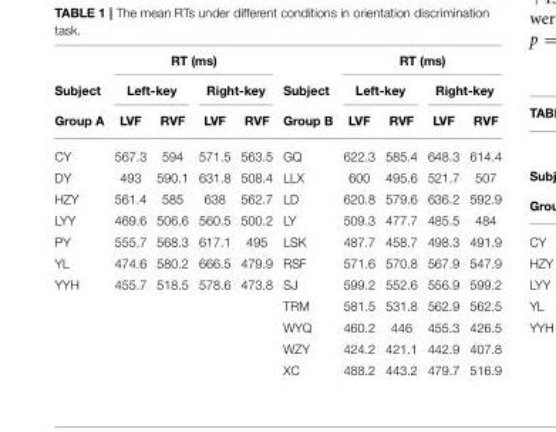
<table><thead><tr><td rowspan="3">Subject Group A</td><td colspan="4">RT (ms)</td><td rowspan="3">Subject Group B</td><td colspan="4">RT (ms)</td></tr><tr><td colspan="2">Left-key</td><td colspan="2">Right-key</td><td colspan="2">Left-key</td><td colspan="2">Right-key</td></tr><tr><td>LVF</td><td>RVF</td><td>LVF</td><td>RVF</td><td>LVF</td><td>RVF</td><td>LVF</td><td>RVF</td></tr></thead><tbody><tr><td>CY</td><td>567.3</td><td>594</td><td>571.5</td><td>563.5</td><td>GQ</td><td>622.3</td><td>585.4</td><td>648.3</td><td>614.4</td></tr><tr><td>DY</td><td>493</td><td>590.1</td><td>631.8</td><td>508.4</td><td>LLX</td><td>600</td><td>495.6</td><td>521.7</td><td>507</td></tr><tr><td>HZY</td><td>561.4</td><td>585</td><td>638</td><td>562.7</td><td>LD</td><td>620.8</td><td>579.6</td><td>636.2</td><td>592.9</td></tr><tr><td>LYY</td><td>469.6</td><td>506.6</td><td>560.5</td><td>500.2</td><td>LY</td><td>509.3</td><td>477.7</td><td>485.5</td><td>484</td></tr><tr><td>PY</td><td>555.7</td><td>568.3</td><td>617.1</td><td>495</td><td>LSK</td><td>487.7</td><td>458.7</td><td>498.3</td><td>491.9</td></tr><tr><td>YL</td><td>474.6</td><td>580.2</td><td>666.5</td><td>479.9</td><td>RSF</td><td>571.6</td><td>570.8</td><td>567.9</td><td>547.9</td></tr><tr><td rowspan="5">YYH</td><td>455.7</td><td>518.5</td><td>578.6</td><td>473.8</td><td>SJ</td><td>599.2</td><td>552.6</td><td>556.9</td><td>599.2</td></tr><tr><td></td><td></td><td></td><td></td><td>TRM</td><td>581.5</td><td>531.8</td><td>562.9</td><td>562.5</td></tr><tr><td></td><td></td><td></td><td></td><td>WYQ</td><td>460.2</td><td>446</td><td>455.3</td><td>426.5</td></tr><tr><td></td><td></td><td></td><td></td><td>WZY</td><td>424.2</td><td>421.1</td><td>442.9</td><td>407.8</td></tr><tr><td></td><td></td><td></td><td></td><td>XC</td><td>488.2</td><td>443.2</td><td>479.7</td><td>516.9</td></tr></tbody></table>